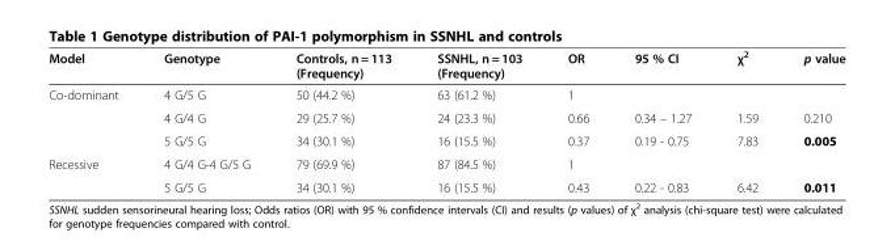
<table><thead><tr><td>Model</td><td>Genotype</td><td>Controls, n = 113 (Frequency)</td><td>SSNHL, n = 103 (Frequency)</td><td>OR</td><td>95 % CI</td><td>χ<sup>2</sup></td><td>p value</td></tr></thead><tbody><tr><td rowspan="3">Co-dominant</td><td>4 G/5 G</td><td>50 (44.2 %)</td><td>63 (61.2 %)</td><td>1</td><td></td><td></td><td></td></tr><tr><td>4 G/4 G</td><td>29 (25.7 %)</td><td>24 (23.3 %)</td><td>0.66</td><td>0.34 – 1.27</td><td>1.59</td><td>0.210</td></tr><tr><td>5 G/5 G</td><td>34 (30.1 %)</td><td>16 (15.5 %)</td><td>0.37</td><td>0.19 - 0.75</td><td>7.83</td><td>0.005</td></tr><tr><td rowspan="2">Recessive</td><td>4 G/4 G-4 G/5 G</td><td>79 (69.9 %)</td><td>87 (84.5 %)</td><td>1</td><td></td><td></td><td></td></tr><tr><td>5 G/5 G</td><td>34 (30.1 %)</td><td>16 (15.5 %)</td><td>0.43</td><td>0.22 - 0.83</td><td>6.42</td><td>0.011</td></tr></tbody></table>